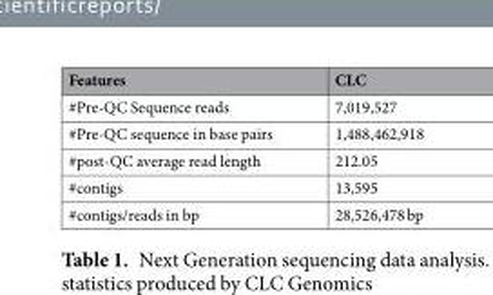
<table><thead><tr><td>Features</td><td>CLC</td></tr></thead><tbody><tr><td>#Pre-QC Sequence reads</td><td>7,019,527</td></tr><tr><td>#Pre-QC sequence in base pairs</td><td>1,488,462,918</td></tr><tr><td>#post-QC average read length</td><td>212.05</td></tr><tr><td>#contigs</td><td>13,595</td></tr><tr><td>#contigs/reads in bp</td><td>28,526,478 bp</td></tr></tbody></table>